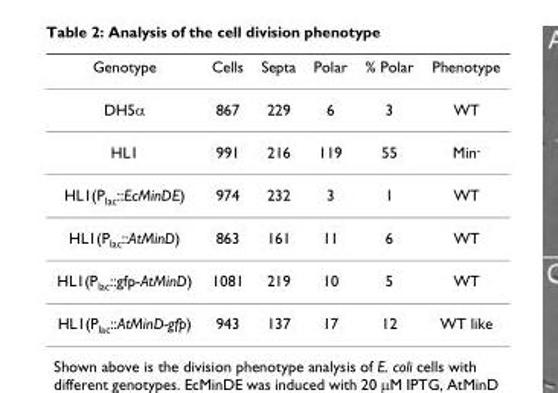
<table><thead><tr><td>Genotype</td><td>Cells</td><td>Septa</td><td>Polar</td><td>% Polar</td><td>Phenotype</td></tr></thead><tbody><tr><td>DH5α</td><td>867</td><td>229</td><td>6</td><td>3</td><td>WT</td></tr><tr><td>HL1</td><td>991</td><td>216</td><td>119</td><td>55</td><td>Min<sup>-</sup></td></tr><tr><td>HL1(P<sub>lac</sub>::EcMinDE)</td><td>974</td><td>232</td><td>3</td><td>1</td><td>WT</td></tr><tr><td>HL1(P<sub>lac</sub>::AtMinD)</td><td>863</td><td>161</td><td>11</td><td>6</td><td>WT</td></tr><tr><td>HL1(P<sub>lac</sub>::gfp-AtMinD)</td><td>1081</td><td>219</td><td>10</td><td>5</td><td>WT</td></tr><tr><td>HL1(P<sub>lac</sub>::AtMinD-gfp)</td><td>943</td><td>137</td><td>17</td><td>12</td><td>WT like</td></tr></tbody></table>